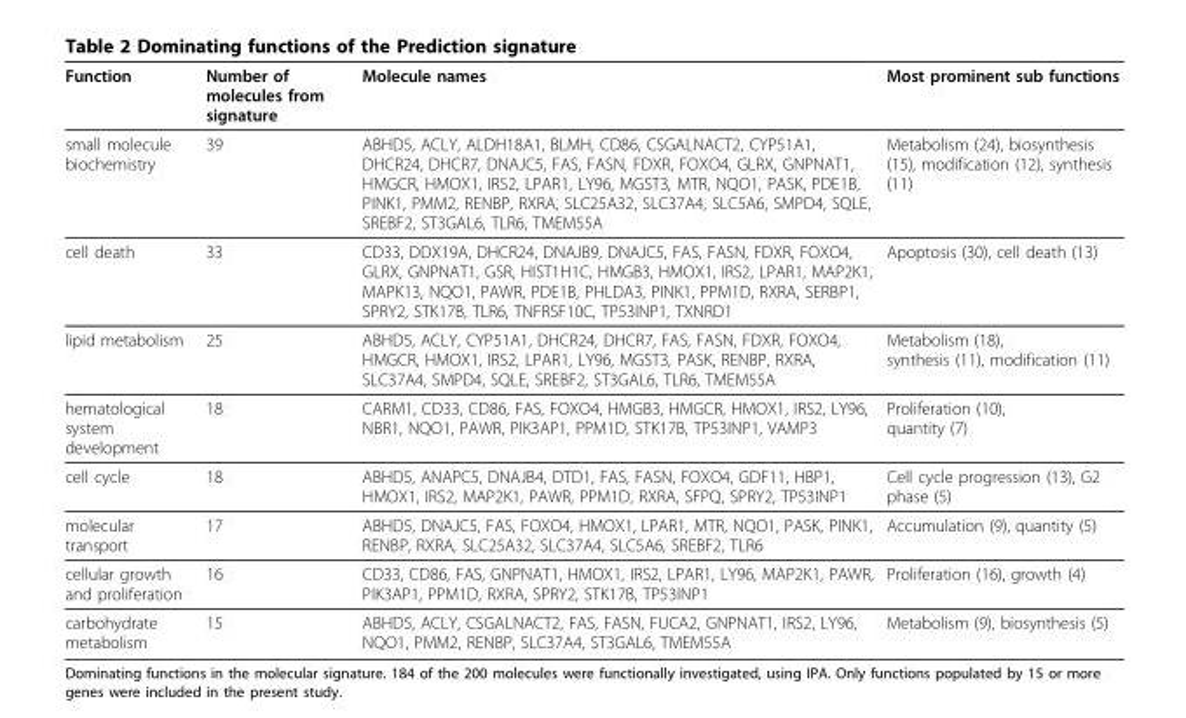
<table><thead><tr><td>Function</td><td>Number of molecules from signature</td><td>Molecule names</td><td>Most prominent sub functions</td></tr></thead><tbody><tr><td>small molecule biochemistry</td><td>39</td><td>ABHD5, ACLY, ALDH18A1, BLMH, CD86, CSGALNACT2, CYP51A1, DHCR24, DHCR7, DNAJC5, FAS, FASN, FDXR, FOXO4, GLRX, GNPNAT1, HMGCR, HMOX1, IRS2, LPAR1, LY96, MGST3, MTR, NQO1, PASK, PDE1B, PINK1, PMM2, RENBP, RXRA, SLC25A32, SLC37A4, SLC5A6, SMPD4, SQLE, SREBF2, ST3GAL6, TLR6, TMEM55A</td><td>Metabolism (24), biosynthesis (15), modification (12), synthesis (11)</td></tr><tr><td>cell death</td><td>33</td><td>CD33, DDX19A, DHCR24, DNAJB9, DNAJC5, FAS, FASN, FDXR, FOXO4, GLRX, GNPNAT1, GSR, HIST1H1C, HMGB3, HMOX1, IRS2, LPAR1, MAP2K1, MAPK13, NQO1, PAWR, PDE1B, PHLDA3, PINK1, PPM1D, RXRA, SERBP1, SPRY2, STK17B, TLR6, TNFRSF10C, TP53INP1, TXNRD1</td><td>Apoptosis (30), cell death (13)</td></tr><tr><td>lipid metabolism</td><td>25</td><td>ABHD5, ACLY, CYP51A1, DHCR24, DHCR7, FAS, FASN, FDXR, FOXO4, HMGCR, HMOX1, IRS2, LPAR1, LY96, MGST3, PASK, RENBP, RXRA, SLC37A4, SMPD4, SQLE, SREBF2, ST3GAL6, TLR6, TMEM55A</td><td>Metabolism (18), synthesis (11), modification (11)</td></tr><tr><td>hematological system development</td><td>18</td><td>CARM1, CD33, CD86, FAS, FOXO4, HMGB3, HMGCR, HMOX1, IRS2, LY96, NBR1, NQO1, PAWR, PIK3AP1, PPM1D, STK17B, TP53INP1, VAMP3</td><td>Proliferation (10), quantity (7)</td></tr><tr><td>cell cycle</td><td>18</td><td>ABHD5, ANAPC5, DNAJB4, DTD1, FAS, FASN, FOXO4, GDF11, HBP1, HMOX1, IRS2, MAP2K1, PAWR, PPM1D, RXRA, SFPQ, SPRY2, TP53INP1</td><td>Cell cycle progression (13), G2 phase (5)</td></tr><tr><td>molecular transport</td><td>17</td><td>ABHD5, DNAJC5, FAS, FOXO4, HMOX1, LPAR1, MTR, NQO1, PASK, PINK1, RENBP, RXRA, SLC25A32, SLC37A4, SLC5A6, SREBF2, TLR6</td><td>Accumulation (9), quantity (5)</td></tr><tr><td>cellular growth and proliferation</td><td>16</td><td>CD33, CD86, FAS, GNPNAT1, HMOX1, IRS2, LPAR1, LY96, MAP2K1, PAWR, PIK3AP1, PPM1D, RXRA, SPRY2, STK17B, TP53INP1</td><td>Proliferation (16), growth (4)</td></tr><tr><td>carbohydrate metabolism</td><td>15</td><td>ABHD5, ACLY, CSGALNACT2, FAS, FASN, FUCA2, GNPNAT1, IRS2, LY96, NQO1, PMM2, RENBP, SLC37A4, ST3GAL6, TMEM55A</td><td>Metabolism (9), biosynthesis (5)</td></tr></tbody></table>